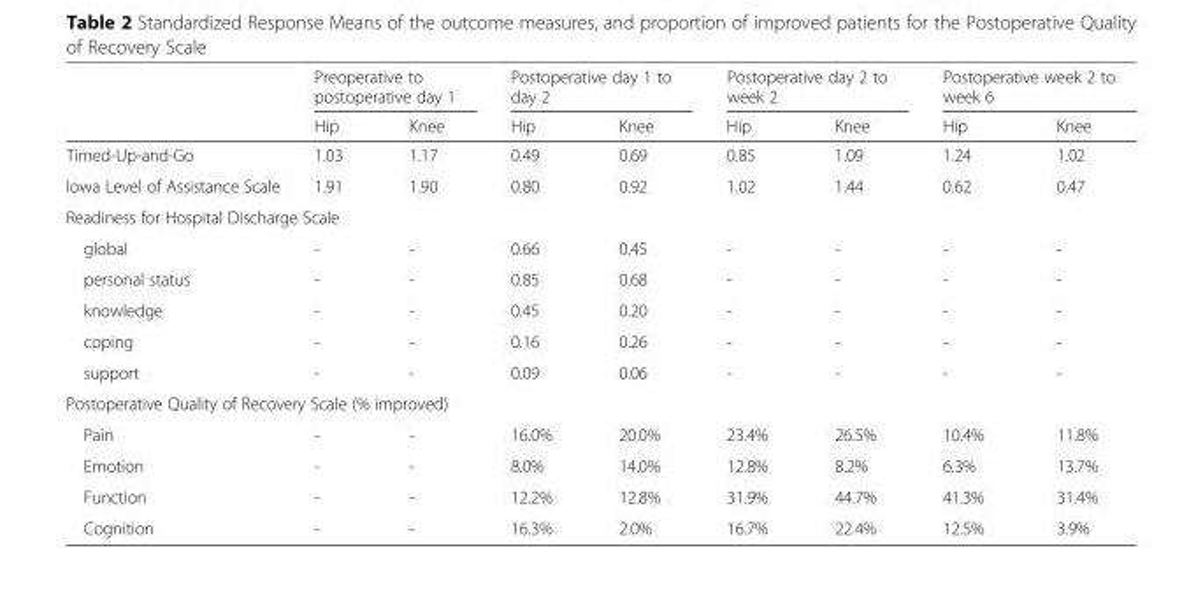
<table><thead><tr><td rowspan="2"></td><td colspan="2">Preoperative to postoperative day 1</td><td colspan="2">Postoperative day 1 to day 2</td><td colspan="2">Postoperative day 2 to week 2</td><td colspan="2">Postoperative week 2 to week 6</td></tr><tr><td>Hip</td><td>Knee</td><td>Hip</td><td>Knee</td><td>Hip</td><td>Knee</td><td>Hip</td><td>Knee</td></tr></thead><tbody><tr><td>Timed-Up-and-Go</td><td>1.03</td><td>1.17</td><td>0.49</td><td>0.69</td><td>0.85</td><td>1.09</td><td>1.24</td><td>1.02</td></tr><tr><td>Iowa Level of Assistance Scale</td><td>1.91</td><td>1.90</td><td>0.80</td><td>0.92</td><td>1.02</td><td>1.44</td><td>0.62</td><td>0.47</td></tr><tr><td colspan="9">Readiness for Hospital Discharge Scale</td></tr><tr><td>global</td><td>-</td><td>-</td><td>0.66</td><td>0.45</td><td>-</td><td>-</td><td>-</td><td>-</td></tr><tr><td>personal status</td><td>-</td><td>-</td><td>0.85</td><td>0.68</td><td>-</td><td>-</td><td>-</td><td>-</td></tr><tr><td>knowledge</td><td>-</td><td>-</td><td>0.45</td><td>0.20</td><td>-</td><td>-</td><td>-</td><td>-</td></tr><tr><td>coping</td><td>-</td><td>-</td><td>0.16</td><td>0.26</td><td>-</td><td>-</td><td>-</td><td>-</td></tr><tr><td>support</td><td>-</td><td>-</td><td>0.09</td><td>0.06</td><td>-</td><td>-</td><td>-</td><td>-</td></tr><tr><td colspan="9">Postoperative Quality of Recovery Scale (% improved)</td></tr><tr><td>Pain</td><td>-</td><td>-</td><td>16.0%</td><td>20.0%</td><td>23.4%</td><td>26.5%</td><td>10.4%</td><td>11.8%</td></tr><tr><td>Emotion</td><td>-</td><td>-</td><td>8.0%</td><td>14.0%</td><td>12.8%</td><td>8.2%</td><td>6.3%</td><td>13.7%</td></tr><tr><td>Function</td><td>-</td><td>-</td><td>12.2%</td><td>12.8%</td><td>31.9%</td><td>44.7%</td><td>41.3%</td><td>31.4%</td></tr><tr><td>Cognition</td><td>-</td><td>-</td><td>16.3%</td><td>2.0%</td><td>16.7%</td><td>22.4%</td><td>12.5%</td><td>3.9%</td></tr></tbody></table>